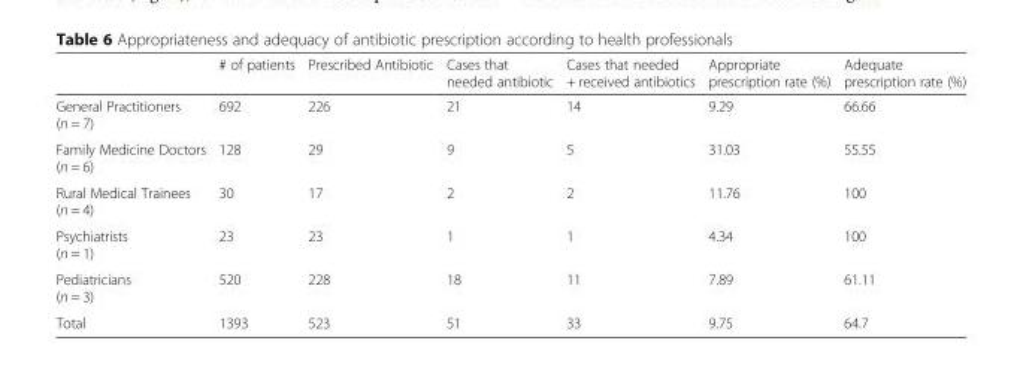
<table><thead><tr><td></td><td># of patients</td><td>Prescribed Antibiotic</td><td>Cases that needed antibiotic</td><td>Cases that needed + received antibiotics</td><td>Appropriate prescription rate (%)</td><td>Adequate prescription rate (%)</td></tr></thead><tbody><tr><td>General Practitioners (n = 7)</td><td>692</td><td>226</td><td>21</td><td>14</td><td>9.29</td><td>66.66</td></tr><tr><td>Family Medicine Doctors (n = 6)</td><td>128</td><td>29</td><td>9</td><td>5</td><td>31.03</td><td>55.55</td></tr><tr><td>Rural Medical Trainees (n = 4)</td><td>30</td><td>17</td><td>2</td><td>2</td><td>11.76</td><td>100</td></tr><tr><td>Psychiatrists (n = 1)</td><td>23</td><td>23</td><td>1</td><td>1</td><td>4.34</td><td>100</td></tr><tr><td>Pediatricians (n = 3)</td><td>520</td><td>228</td><td>18</td><td>11</td><td>7.89</td><td>61.11</td></tr><tr><td>Total</td><td>1393</td><td>523</td><td>51</td><td>33</td><td>9.75</td><td>64.7</td></tr></tbody></table>